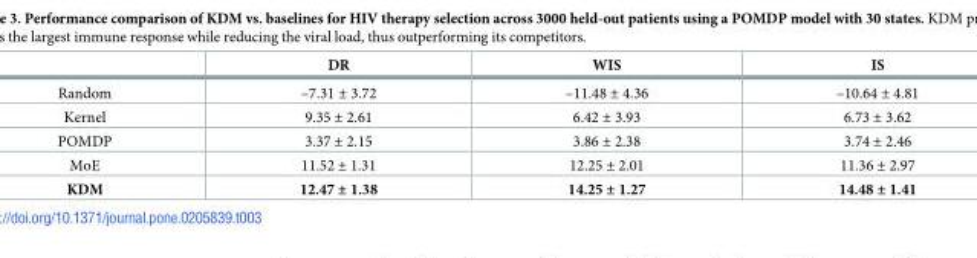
<table><thead><tr><td></td><td>DR</td><td>WIS</td><td>IS</td></tr></thead><tbody><tr><td>Random</td><td>–7.31 ± 3.72</td><td>–11.48 ± 4.36</td><td>–10.64 ± 4.81</td></tr><tr><td>Kernel</td><td>9.35 ± 2.61</td><td>6.42 ± 3.93</td><td>6.73 ± 3.62</td></tr><tr><td>POMDP</td><td>3.37 ± 2.15</td><td>3.86 ± 2.38</td><td>3.74 ± 2.46</td></tr><tr><td>MoE</td><td>11.52 ± 1.31</td><td>12.25 ± 2.01</td><td>11.36 ± 2.97</td></tr><tr><td>KDM</td><td>12.47 ± 1.38</td><td>14.25 ± 1.27</td><td>14.48 ± 1.41</td></tr></tbody></table>